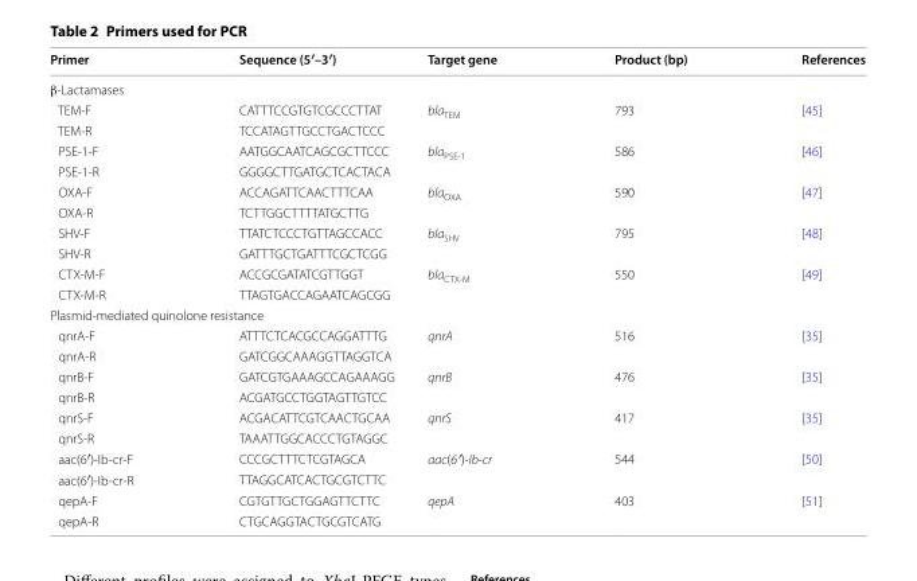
<table><thead><tr><td>Primer</td><td>Sequence (5′–3′)</td><td>Target gene</td><td>Product (bp)</td><td>References</td></tr></thead><tbody><tr><td colspan="5">β-Lactamases</td></tr><tr><td>TEM-F</td><td>CATTTCCGTGTCGCCCTTAT</td><td rowspan="2">bla<sub>TEM</sub></td><td rowspan="2">793</td><td rowspan="2">[45]</td></tr><tr><td>TEM-R</td><td>TCCATAGTTGCCTGACTCCC</td></tr><tr><td>PSE-1-F</td><td>AATGGCAATCAGCGCTTCCC</td><td rowspan="2">bla<sub>PSE-1</sub></td><td rowspan="2">586</td><td rowspan="2">[46]</td></tr><tr><td>PSE-1-R</td><td>GGGGCTTGATGCTCACTACA</td></tr><tr><td>OXA-F</td><td>ACCAGATTCAACTTTCAA</td><td rowspan="2">bla<sub>OXA</sub></td><td rowspan="2">590</td><td rowspan="2">[47]</td></tr><tr><td>OXA-R</td><td>TCTTGGCTTTTATGCTTG</td></tr><tr><td>SHV-F</td><td>TTATCTCCCTGTTAGCCACC</td><td rowspan="2">bla<sub>SHV</sub></td><td rowspan="2">795</td><td rowspan="2">[48]</td></tr><tr><td>SHV-R</td><td>GATTTGCTGATTTCGCTCGG</td></tr><tr><td>CTX-M-F</td><td>ACCGCGATATCGTTGGT</td><td rowspan="2">bla<sub>CTX-M</sub></td><td rowspan="2">550</td><td rowspan="2">[49]</td></tr><tr><td>CTX-M-R</td><td>TTAGTGACCAGAATCAGCGG</td></tr><tr><td colspan="5">Plasmid-mediated quinolone resistance</td></tr><tr><td>qnrA-F</td><td>ATTTCTCACGCCAGGATTTG</td><td rowspan="2">qnrA</td><td rowspan="2">516</td><td rowspan="2">[35]</td></tr><tr><td>qnrA-R</td><td>GATCGGCAAAGGTTAGGTCA</td></tr><tr><td>qnrB-F</td><td>GATCGTGAAAGCCAGAAAGG</td><td rowspan="2">qnrB</td><td rowspan="2">476</td><td rowspan="2">[35]</td></tr><tr><td>qnrB-R</td><td>ACGATGCCTGGTAGTTGTCC</td></tr><tr><td>qnrS-F</td><td>ACGACATTCGTCAACTGCAA</td><td rowspan="2">qnrS</td><td rowspan="2">417</td><td rowspan="2">[35]</td></tr><tr><td>qnrS-R</td><td>TAAATTGGCACCCTGTAGGC</td></tr><tr><td>aac(6′)-Ib-cr-F</td><td>CCCGCTTTCTCGTAGCA</td><td rowspan="2">aac(6′)-Ib-cr</td><td rowspan="2">544</td><td rowspan="2">[50]</td></tr><tr><td>aac(6′)-Ib-cr-R</td><td>TTAGGCATCACTGCGTCTTC</td></tr><tr><td>qepA-F</td><td>CGTGTTGCTGGAGTTCTTC</td><td rowspan="2">qepA</td><td rowspan="2">403</td><td rowspan="2">[51]</td></tr><tr><td>qepA-R</td><td>CTGCAGGTACTGCGTCATG</td></tr></tbody></table>